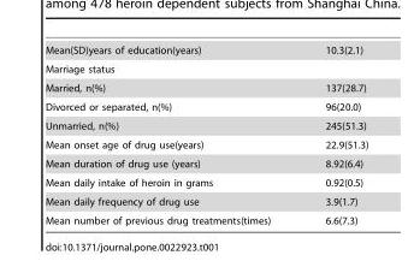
<table><tbody><tr><td>Mean(SD)years of education(years)</td><td>10.3(2.1)</td></tr><tr><td colspan="2">Marriage status</td></tr><tr><td>Married, n(%)</td><td>137(28.7)</td></tr><tr><td>Divorced or separated, n(%)</td><td>96(20.0)</td></tr><tr><td>Unmarried, n(%)</td><td>245(51.3)</td></tr><tr><td>Mean onset age of drug use(years)</td><td>22.9(51.3)</td></tr><tr><td>Mean duration of drug use (years)</td><td>8.92(6.4)</td></tr><tr><td>Mean daily intake of heroin in grams</td><td>0.92(0.5)</td></tr><tr><td>Mean daily frequency of drug use</td><td>3.9(1.7)</td></tr><tr><td>Mean number of previous drug treatments(times)</td><td>6.6(7.3)</td></tr></tbody></table>